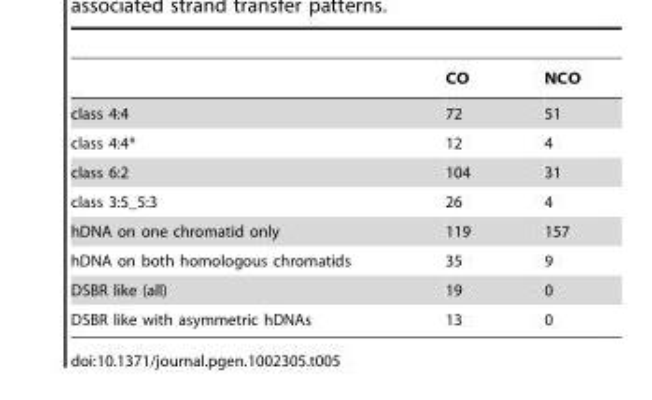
<table><thead><tr><td></td><td>CO</td><td>NCO</td></tr></thead><tbody><tr><td>class 4:4</td><td>72</td><td>51</td></tr><tr><td>class 4:4*</td><td>12</td><td>4</td></tr><tr><td>class 6:2</td><td>104</td><td>31</td></tr><tr><td>class 3:5_5:3</td><td>26</td><td>4</td></tr><tr><td>hDNA on one chromatid only</td><td>119</td><td>157</td></tr><tr><td>hDNA on both homologous chromatids</td><td>35</td><td>9</td></tr><tr><td>DSBR like (all)</td><td>19</td><td>0</td></tr><tr><td>DSBR like with asymmetric hDNAs</td><td>13</td><td>0</td></tr></tbody></table>